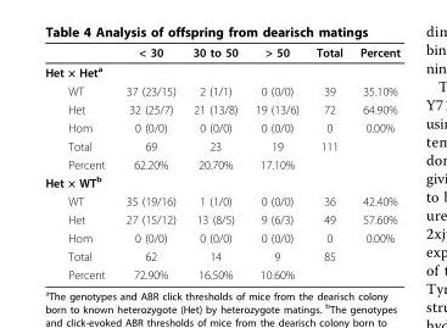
<table><thead><tr><td></td><td>&lt; 30</td><td>30 to 50</td><td>&gt; 50</td><td>Total</td><td>Percent</td></tr></thead><tbody><tr><td colspan="6">Het × Het<sup>a</sup></td></tr><tr><td>WT</td><td>37 (23/15)</td><td>2 (1/1)</td><td>0 (0/0)</td><td>39</td><td>35.10%</td></tr><tr><td>Het</td><td>32 (25/7)</td><td>21 (13/8)</td><td>19 (13/6)</td><td>72</td><td>64.90%</td></tr><tr><td>Hom</td><td>0 (0/0)</td><td>0 (0/0)</td><td>0 (0/0)</td><td>0</td><td>0.00%</td></tr><tr><td>Total</td><td>69</td><td>23</td><td>19</td><td>111</td><td></td></tr><tr><td>Percent</td><td>62.20%</td><td>20.70%</td><td>17.10%</td><td></td><td></td></tr><tr><td colspan="6">Het × WT<sup>b</sup></td></tr><tr><td>WT</td><td>35 (19/16)</td><td>1 (1/0)</td><td>0 (0/0)</td><td>36</td><td>42.40%</td></tr><tr><td>Het</td><td>27 (15/12)</td><td>13 (8/5)</td><td>9 (6/3)</td><td>49</td><td>57.60%</td></tr><tr><td>Hom</td><td>0 (0/0)</td><td>0 (0/0)</td><td>0 (0/0)</td><td>0</td><td>0.00%</td></tr><tr><td>Total</td><td>62</td><td>14</td><td>9</td><td>85</td><td></td></tr><tr><td>Percent</td><td>72.90%</td><td>16.50%</td><td>10.60%</td><td></td><td></td></tr></tbody></table>